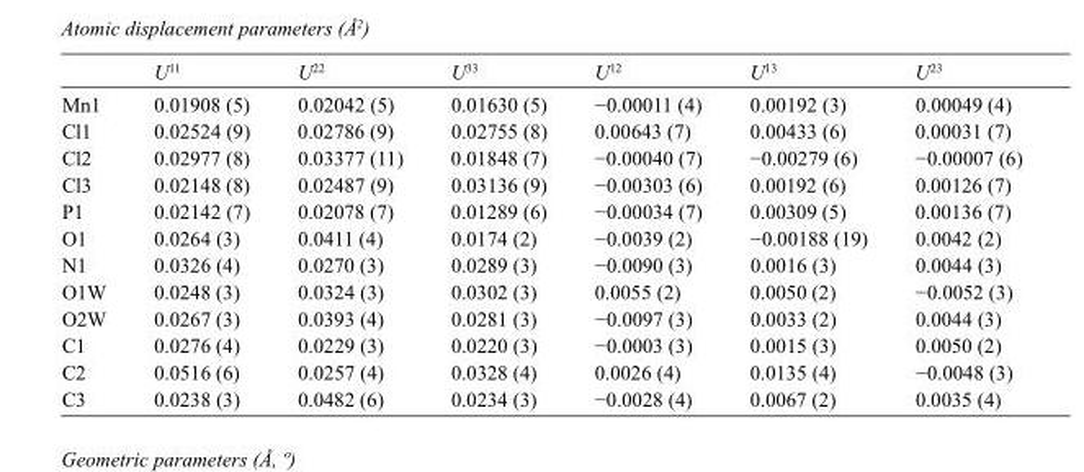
<table><thead><tr><td></td><td>U<sup>11</sup></td><td>U<sup>22</sup></td><td>U<sup>33</sup></td><td>U<sup>12</sup></td><td>U<sup>13</sup></td><td>U<sup>23</sup></td></tr></thead><tbody><tr><td>Mn1</td><td>0.01908 (5)</td><td>0.02042 (5)</td><td>0.01630 (5)</td><td>−0.00011 (4)</td><td>0.00192 (3)</td><td>0.00049 (4)</td></tr><tr><td>Cl1</td><td>0.02524 (9)</td><td>0.02786 (9)</td><td>0.02755 (8)</td><td>0.00643 (7)</td><td>0.00433 (6)</td><td>0.00031 (7)</td></tr><tr><td>Cl2</td><td>0.02977 (8)</td><td>0.03377 (11)</td><td>0.01848 (7)</td><td>−0.00040 (7)</td><td>−0.00279 (6)</td><td>−0.00007 (6)</td></tr><tr><td>Cl3</td><td>0.02148 (8)</td><td>0.02487 (9)</td><td>0.03136 (9)</td><td>−0.00303 (6)</td><td>0.00192 (6)</td><td>0.00126 (7)</td></tr><tr><td>P1</td><td>0.02142 (7)</td><td>0.02078 (7)</td><td>0.01289 (6)</td><td>−0.00034 (7)</td><td>0.00309 (5)</td><td>0.00136 (7)</td></tr><tr><td>O1</td><td>0.0264 (3)</td><td>0.0411 (4)</td><td>0.0174 (2)</td><td>−0.0039 (2)</td><td>−0.00188 (19)</td><td>0.0042 (2)</td></tr><tr><td>N1</td><td>0.0326 (4)</td><td>0.0270 (3)</td><td>0.0289 (3)</td><td>−0.0090 (3)</td><td>0.0016 (3)</td><td>0.0044 (3)</td></tr><tr><td>O1W</td><td>0.0248 (3)</td><td>0.0324 (3)</td><td>0.0302 (3)</td><td>0.0055 (2)</td><td>0.0050 (2)</td><td>−0.0052 (3)</td></tr><tr><td>O2W</td><td>0.0267 (3)</td><td>0.0393 (4)</td><td>0.0281 (3)</td><td>−0.0097 (3)</td><td>0.0033 (2)</td><td>0.0044 (3)</td></tr><tr><td>C1</td><td>0.0276 (4)</td><td>0.0229 (3)</td><td>0.0220 (3)</td><td>−0.0003 (3)</td><td>0.0015 (3)</td><td>0.0050 (2)</td></tr><tr><td>C2</td><td>0.0516 (6)</td><td>0.0257 (4)</td><td>0.0328 (4)</td><td>0.0026 (4)</td><td>0.0135 (4)</td><td>−0.0048 (3)</td></tr><tr><td>C3</td><td>0.0238 (3)</td><td>0.0482 (6)</td><td>0.0234 (3)</td><td>−0.0028 (4)</td><td>0.0067 (2)</td><td>0.0035 (4)</td></tr></tbody></table>